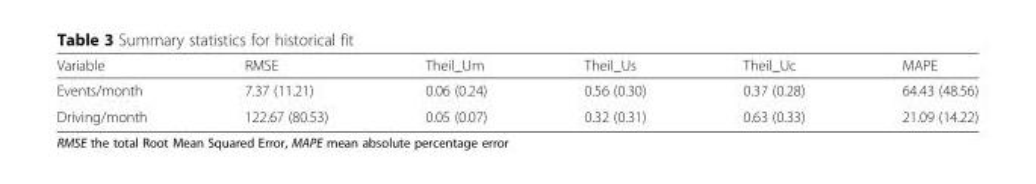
<table><thead><tr><td>Variable</td><td>RMSE</td><td>Theil_Um</td><td>Theil_Us</td><td>Theil_Uc</td><td>MAPE</td></tr></thead><tbody><tr><td>Events/month</td><td>7.37 (11.21)</td><td>0.06 (0.24)</td><td>0.56 (0.30)</td><td>0.37 (0.28)</td><td>64.43 (48.56)</td></tr><tr><td>Driving/month</td><td>122.67 (80.53)</td><td>0.05 (0.07)</td><td>0.32 (0.31)</td><td>0.63 (0.33)</td><td>21.09 (14.22)</td></tr></tbody></table>